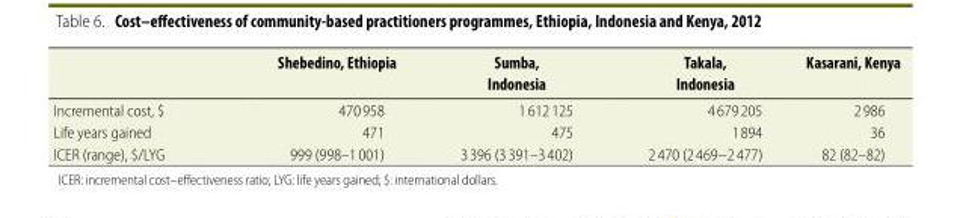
<table><thead><tr><td></td><td>Shebedino, Ethiopia</td><td>Sumba, Indonesia</td><td>Takala, Indonesia</td><td>Kasarani, Kenya</td></tr></thead><tbody><tr><td>Incremental cost, $</td><td>470 958</td><td>1 612 125</td><td>4 679 205</td><td>2 986</td></tr><tr><td>Life years gained</td><td>471</td><td>475</td><td>1 894</td><td>36</td></tr><tr><td>ICER (range), $/LYG</td><td>999 (998–1 001)</td><td>3 396 (3 391–3 402)</td><td>2 470 (2 469−2 477)</td><td>82 (82–82)</td></tr></tbody></table>